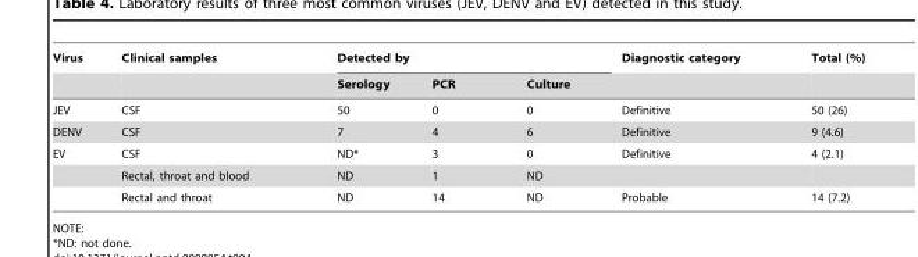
<table><thead><tr><td rowspan="2">Virus</td><td rowspan="2">Clinical samples</td><td colspan="3">Detected by</td><td rowspan="2">Diagnostic category</td><td rowspan="2">Total (%)</td></tr><tr><td>Serology</td><td>PCR</td><td>Culture</td></tr></thead><tbody><tr><td>JEV</td><td>CSF</td><td>50</td><td>0</td><td>0</td><td>Definitive</td><td>50 (26)</td></tr><tr><td>DENV</td><td>CSF</td><td>7</td><td>4</td><td>6</td><td>Definitive</td><td>9 (4.6)</td></tr><tr><td rowspan="3">EV</td><td>CSF</td><td>ND*</td><td>3</td><td>0</td><td>Definitive</td><td>4 (2.1)</td></tr><tr><td>Rectal, throat and blood</td><td>ND</td><td>1</td><td>ND</td><td></td><td></td></tr><tr><td>Rectal and throat</td><td>ND</td><td>14</td><td>ND</td><td>Probable</td><td>14 (7.2)</td></tr></tbody></table>